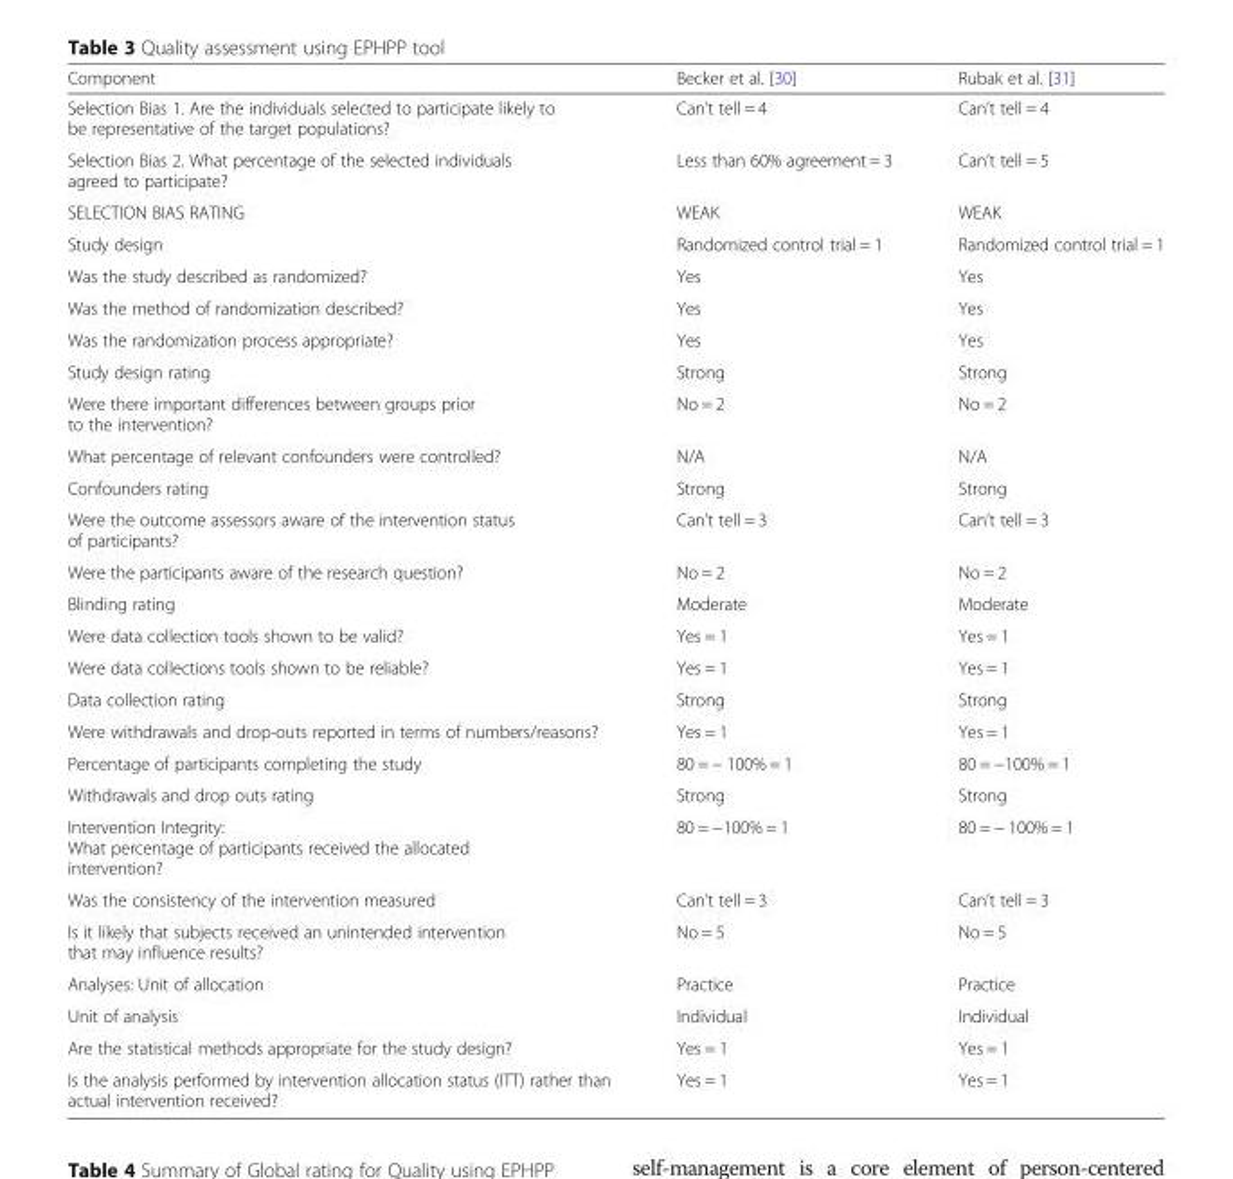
<table><thead><tr><td>Component</td><td>Becker et al. [30]</td><td>Rubak et al. [31]</td></tr></thead><tbody><tr><td>Selection Bias 1. Are the individuals selected to participate likely to be representative of the target populations?</td><td>Can’t tell = 4</td><td>Can’t tell = 4</td></tr><tr><td>Selection Bias 2. What percentage of the selected individuals agreed to participate?</td><td>Less than 60% agreement = 3</td><td>Can’t tell = 5</td></tr><tr><td>SELECTION BIAS RATING</td><td>WEAK</td><td>WEAK</td></tr><tr><td>Study design</td><td>Randomized control trial = 1</td><td>Randomized control trial = 1</td></tr><tr><td>Was the study described as randomized?</td><td>Yes</td><td>Yes</td></tr><tr><td>Was the method of randomization described?</td><td>Yes</td><td>Yes</td></tr><tr><td>Was the randomization process appropriate?</td><td>Yes</td><td>Yes</td></tr><tr><td>Study design rating</td><td>Strong</td><td>Strong</td></tr><tr><td>Were there important differences between groups prior to the intervention?</td><td>No = 2</td><td>No = 2</td></tr><tr><td>What percentage of relevant confounders were controlled?</td><td>N/A</td><td>N/A</td></tr><tr><td>Confounders rating</td><td>Strong</td><td>Strong</td></tr><tr><td>Were the outcome assessors aware of the intervention status of participants?</td><td>Can’t tell = 3</td><td>Can’t tell = 3</td></tr><tr><td>Were the participants aware of the research question?</td><td>No = 2</td><td>No = 2</td></tr><tr><td>Blinding rating</td><td>Moderate</td><td>Moderate</td></tr><tr><td>Were data collection tools shown to be valid?</td><td>Yes = 1</td><td>Yes = 1</td></tr><tr><td>Were data collections tools shown to be reliable?</td><td>Yes = 1</td><td>Yes = 1</td></tr><tr><td>Data collection rating</td><td>Strong</td><td>Strong</td></tr><tr><td>Were withdrawals and drop-outs reported in terms of numbers/reasons?</td><td>Yes = 1</td><td>Yes = 1</td></tr><tr><td>Percentage of participants completing the study</td><td>80 = − 100% = 1</td><td>80 = −100% = 1</td></tr><tr><td>Withdrawals and drop outs rating</td><td>Strong</td><td>Strong</td></tr><tr><td>Intervention Integrity: What percentage of participants received the allocated intervention?</td><td>80 = −100% = 1</td><td>80 = − 100% = 1</td></tr><tr><td>Was the consistency of the intervention measured</td><td>Can’t tell = 3</td><td>Can’t tell = 3</td></tr><tr><td>Is it likely that subjects received an unintended intervention that may influence results?</td><td>No = 5</td><td>No = 5</td></tr><tr><td>Analyses: Unit of allocation</td><td>Practice</td><td>Practice</td></tr><tr><td>Unit of analysis</td><td>Individual</td><td>Individual</td></tr><tr><td>Are the statistical methods appropriate for the study design?</td><td>Yes = 1</td><td>Yes = 1</td></tr><tr><td>Is the analysis performed by intervention allocation status (ITT) rather than actual intervention received?</td><td>Yes = 1</td><td>Yes = 1</td></tr></tbody></table>